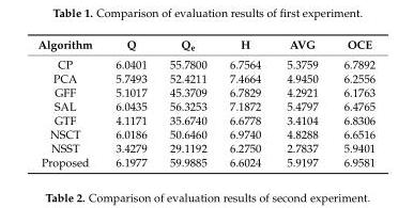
<table><thead><tr><td>Algorithm</td><td>Q</td><td>Q<sub>e</sub></td><td>H</td><td>AVG</td><td>OCE</td></tr></thead><tbody><tr><td>CP</td><td>6.0401</td><td>55.7800</td><td>6.7564</td><td>5.3759</td><td>6.7892</td></tr><tr><td>PCA</td><td>5.7493</td><td>52.4211</td><td>7.4664</td><td>4.9450</td><td>6.2556</td></tr><tr><td>GFF</td><td>5.1017</td><td>45.3709</td><td>6.7829</td><td>4.2921</td><td>6.1763</td></tr><tr><td>SAL</td><td>6.0435</td><td>56.3253</td><td>7.1872</td><td>5.4797</td><td>6.4765</td></tr><tr><td>GTF</td><td>4.1171</td><td>35.6740</td><td>6.6778</td><td>3.4104</td><td>6.8306</td></tr><tr><td>NSCT</td><td>6.0186</td><td>50.6460</td><td>6.9740</td><td>4.8288</td><td>6.6516</td></tr><tr><td>NSST</td><td>3.4279</td><td>29.1192</td><td>6.2750</td><td>2.7837</td><td>5.9401</td></tr><tr><td>Proposed</td><td>6.1977</td><td>59.9885</td><td>6.6024</td><td>5.9197</td><td>6.9581</td></tr></tbody></table>